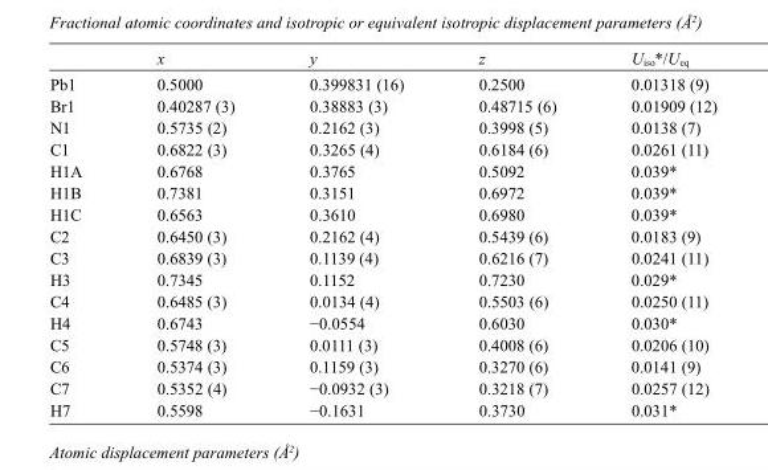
<table><thead><tr><td></td><td>x</td><td>y</td><td>z</td><td>U<sub>iso</sub>*/U<sub>eq</sub></td></tr></thead><tbody><tr><td>Pb1</td><td>0.5000</td><td>0.399831 (16)</td><td>0.2500</td><td>0.01318 (9)</td></tr><tr><td>Br1</td><td>0.40287 (3)</td><td>0.38883 (3)</td><td>0.48715 (6)</td><td>0.01909 (12)</td></tr><tr><td>N1</td><td>0.5735 (2)</td><td>0.2162 (3)</td><td>0.3998 (5)</td><td>0.0138 (7)</td></tr><tr><td>C1</td><td>0.6822 (3)</td><td>0.3265 (4)</td><td>0.6184 (6)</td><td>0.0261 (11)</td></tr><tr><td>H1A</td><td>0.6768</td><td>0.3765</td><td>0.5092</td><td>0.039*</td></tr><tr><td>H1B</td><td>0.7381</td><td>0.3151</td><td>0.6972</td><td>0.039*</td></tr><tr><td>H1C</td><td>0.6563</td><td>0.3610</td><td>0.6980</td><td>0.039*</td></tr><tr><td>C2</td><td>0.6450 (3)</td><td>0.2162 (4)</td><td>0.5439 (6)</td><td>0.0183 (9)</td></tr><tr><td>C3</td><td>0.6839 (3)</td><td>0.1139 (4)</td><td>0.6216 (7)</td><td>0.0241 (11)</td></tr><tr><td>H3</td><td>0.7345</td><td>0.1152</td><td>0.7230</td><td>0.029*</td></tr><tr><td>C4</td><td>0.6485 (3)</td><td>0.0134 (4)</td><td>0.5503 (6)</td><td>0.0250 (11)</td></tr><tr><td>H4</td><td>0.6743</td><td>−0.0554</td><td>0.6030</td><td>0.030*</td></tr><tr><td>C5</td><td>0.5748 (3)</td><td>0.0111 (3)</td><td>0.4008 (6)</td><td>0.0206 (10)</td></tr><tr><td>C6</td><td>0.5374 (3)</td><td>0.1159 (3)</td><td>0.3270 (6)</td><td>0.0141 (9)</td></tr><tr><td>C7</td><td>0.5352 (4)</td><td>−0.0932 (3)</td><td>0.3218 (7)</td><td>0.0257 (12)</td></tr><tr><td>H7</td><td>0.5598</td><td>−0.1631</td><td>0.3730</td><td>0.031*</td></tr></tbody></table>